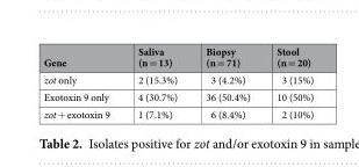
<table><thead><tr><td>Gene</td><td>Saliva (n = 13)</td><td>Biopsy (n = 71)</td><td>Stool (n = 20)</td></tr></thead><tbody><tr><td>zot only</td><td>2 (15.3%)</td><td>3 (4.2%)</td><td>3 (15%)</td></tr><tr><td>Exotoxin 9 only</td><td>4 (30.7%)</td><td>36 (50.4%)</td><td>10 (50%)</td></tr><tr><td>zot + exotoxin 9</td><td>1 (7.1%)</td><td>6 (8.4%)</td><td>2 (10%)</td></tr></tbody></table>